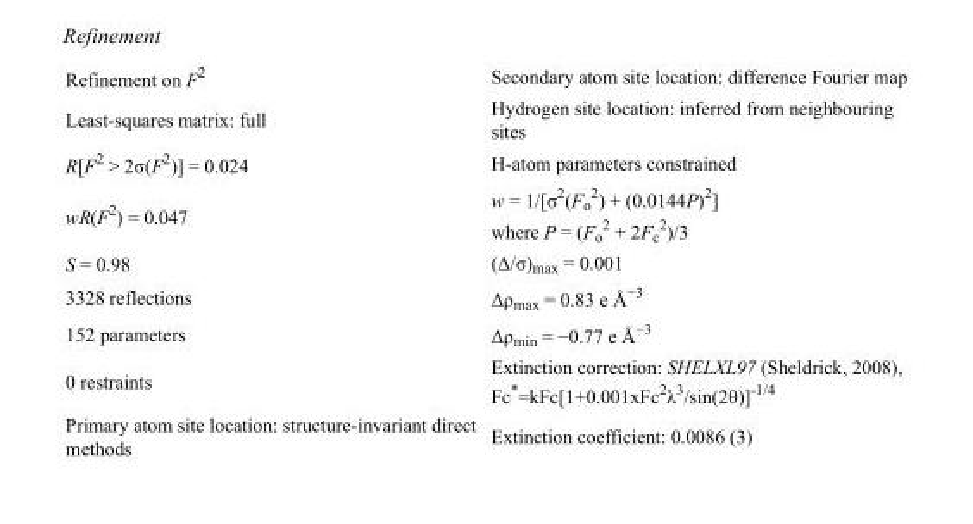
<table><tbody><tr><td>Refinement on F<sup>2</sup></td><td>Secondary atom site location: difference Fourier map</td></tr><tr><td>Least-squares matrix: full</td><td>Hydrogen site location: inferred from neighbouring sites</td></tr><tr><td>R[F<sup>2</sup> &gt; 2σ(F<sup>2</sup>)] = 0.024</td><td>H-atom parameters constrained</td></tr><tr><td>wR(F<sup>2</sup>) = 0.047</td><td>w = 1/[σ<sup>2</sup>(F<sub>o</sub> <sup>2</sup>) + (0.0144P)<sup>2</sup>] where P = (F<sub>o</sub> <sup>2</sup> + 2F<sub>c</sub> <sup>2</sup>)/3</td></tr><tr><td>S = 0.98</td><td>(Δ/σ)<sub>max</sub> = 0.001</td></tr><tr><td>3328 reflections</td><td>Δρ<sub>max</sub> = 0.83 e Å<sup>−3</sup></td></tr><tr><td>152 parameters</td><td>Δρ<sub>min</sub> = −0.77 e Å<sup>−3</sup></td></tr><tr><td>0 restraints</td><td>Extinction correction: SHELXL97 (Sheldrick, 2008), Fc*=kFc[1+0.001xFc<sup>2</sup>λ<sup>3</sup>/sin(2θ)]<sup>-1/4</sup></td></tr><tr><td>Primary atom site location: structure-invariant direct methods</td><td>Extinction coefficient: 0.0086 (3)</td></tr></tbody></table>